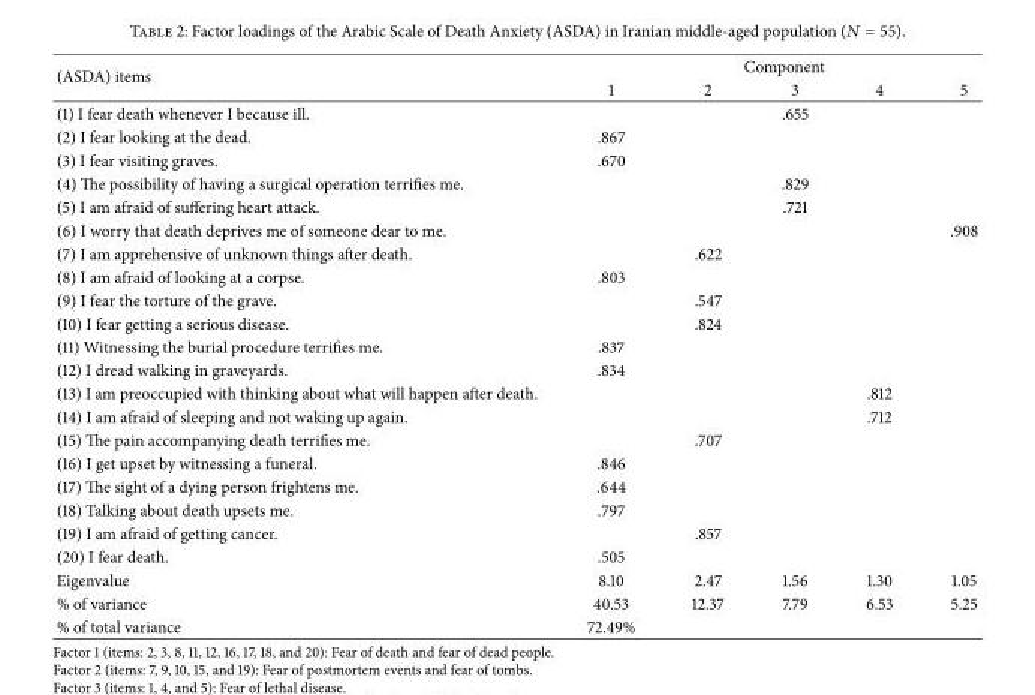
<table><thead><tr><td rowspan="2">(ASDA) items</td><td colspan="5">Component</td></tr><tr><td>1</td><td>2</td><td>3</td><td>4</td><td>5</td></tr></thead><tbody><tr><td>(1) I fear death whenever I because ill.</td><td></td><td></td><td>.655</td><td></td><td></td></tr><tr><td>(2) I fear looking at the dead.</td><td>.867</td><td></td><td></td><td></td><td></td></tr><tr><td>(3) I fear visiting graves.</td><td>.670</td><td></td><td></td><td></td><td></td></tr><tr><td>(4) The possibility of having a surgical operation terrifies me.</td><td></td><td></td><td>.829</td><td></td><td></td></tr><tr><td>(5) I am afraid of suffering heart attack.</td><td></td><td></td><td>.721</td><td></td><td></td></tr><tr><td>(6) I worry that death deprives me of someone dear to me.</td><td></td><td></td><td></td><td></td><td>.908</td></tr><tr><td>(7) I am apprehensive of unknown things after death.</td><td></td><td>.622</td><td></td><td></td><td></td></tr><tr><td>(8) I am afraid of looking at a corpse.</td><td>.803</td><td></td><td></td><td></td><td></td></tr><tr><td>(9) I fear the torture of the grave.</td><td></td><td>.547</td><td></td><td></td><td></td></tr><tr><td>(10) I fear getting a serious disease.</td><td></td><td>.824</td><td></td><td></td><td></td></tr><tr><td>(11) Witnessing the burial procedure terrifies me.</td><td>.837</td><td></td><td></td><td></td><td></td></tr><tr><td>(12) I dread walking in graveyards.</td><td>.834</td><td></td><td></td><td></td><td></td></tr><tr><td>(13) I am preoccupied with thinking about what will happen after death.</td><td></td><td></td><td></td><td>.812</td><td></td></tr><tr><td>(14) I am afraid of sleeping and not waking up again.</td><td></td><td></td><td></td><td>.712</td><td></td></tr><tr><td>(15) The pain accompanying death terrifies me.</td><td></td><td>.707</td><td></td><td></td><td></td></tr><tr><td>(16) I get upset by witnessing a funeral.</td><td>.846</td><td></td><td></td><td></td><td></td></tr><tr><td>(17) The sight of a dying person frightens me.</td><td>.644</td><td></td><td></td><td></td><td></td></tr><tr><td>(18) Talking about death upsets me.</td><td>.797</td><td></td><td></td><td></td><td></td></tr><tr><td>(19) I am afraid of getting cancer.</td><td></td><td>.857</td><td></td><td></td><td></td></tr><tr><td>(20) I fear death.</td><td>.505</td><td></td><td></td><td></td><td></td></tr><tr><td>Eigenvalue</td><td>8.10</td><td>2.47</td><td>1.56</td><td>1.30</td><td>1.05</td></tr><tr><td>% of variance</td><td>40.53</td><td>12.37</td><td>7.79</td><td>6.53</td><td>5.25</td></tr><tr><td>% of total variance</td><td>72.49%</td><td></td><td></td><td></td><td></td></tr></tbody></table>